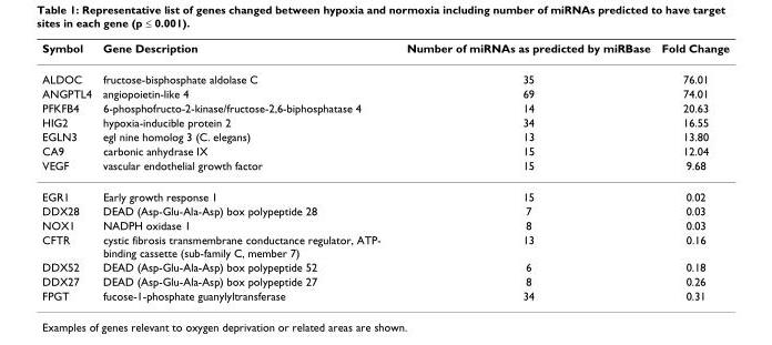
<table><thead><tr><td>Symbol</td><td>Gene Description</td><td>Number of miRNAs as predicted by miRBase</td><td>Fold Change</td></tr></thead><tbody><tr><td>ALDOC</td><td>fructose-bisphosphate aldolase C</td><td>35</td><td>76.01</td></tr><tr><td>ANGPTL4</td><td>angiopoietin-like 4</td><td>69</td><td>74.01</td></tr><tr><td>PFKFB4</td><td>6-phosphofructo-2-kinase/fructose-2,6-biphosphatase 4</td><td>14</td><td>20.63</td></tr><tr><td>HIG2</td><td>hypoxia-inducible protein 2</td><td>34</td><td>16.55</td></tr><tr><td>EGLN3</td><td>egl nine homolog 3 (C. elegans)</td><td>13</td><td>13.80</td></tr><tr><td>CA9</td><td>carbonic anhydrase IX</td><td>15</td><td>12.04</td></tr><tr><td>VEGF</td><td>vascular endothelial growth factor</td><td>15</td><td>9.68</td></tr><tr><td>EGR1</td><td>Early growth response 1</td><td>15</td><td>0.02</td></tr><tr><td>DDX28</td><td>DEAD (Asp-Glu-Ala-Asp) box polypeptide 28</td><td>7</td><td>0.03</td></tr><tr><td>NOX1</td><td>NADPH oxidase 1</td><td>8</td><td>0.03</td></tr><tr><td>CFTR</td><td>cystic fibrosis transmembrane conductance regulator, ATP- binding cassette (sub-family C, member 7)</td><td>13</td><td>0.16</td></tr><tr><td>DDX52</td><td>DEAD (Asp-Glu-Ala-Asp) box polypeptide 52</td><td>6</td><td>0.18</td></tr><tr><td>DDX27</td><td>DEAD (Asp-Glu-Ala-Asp) box polypeptide 27</td><td>8</td><td>0.26</td></tr><tr><td>FPGT</td><td>fucose-1-phosphate guanylyltransferase</td><td>34</td><td>0.31</td></tr></tbody></table>